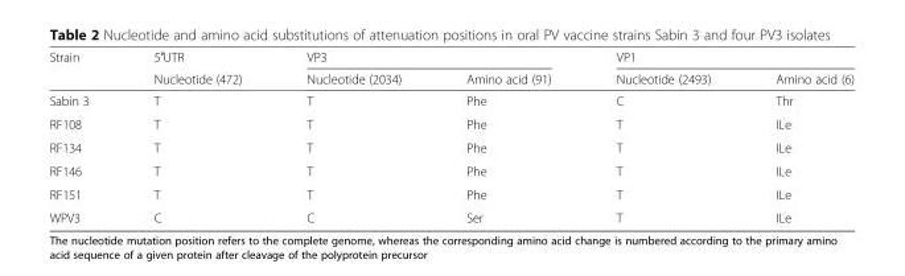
<table><thead><tr><td rowspan="2">Strain</td><td rowspan="2">5′UTR Nucleotide (472)</td><td colspan="2">VP3</td><td colspan="2">VP1</td></tr><tr><td>Nucleotide (2034)</td><td>Amino acid (91)</td><td>Nucleotide (2493)</td><td>Amino acid (6)</td></tr></thead><tbody><tr><td>Sabin 3</td><td>T</td><td>T</td><td>Phe</td><td>C</td><td>Thr</td></tr><tr><td>RF108</td><td>T</td><td>T</td><td>Phe</td><td>T</td><td>ILe</td></tr><tr><td>RF134</td><td>T</td><td>T</td><td>Phe</td><td>T</td><td>ILe</td></tr><tr><td>RF146</td><td>T</td><td>T</td><td>Phe</td><td>T</td><td>ILe</td></tr><tr><td>RF151</td><td>T</td><td>T</td><td>Phe</td><td>T</td><td>ILe</td></tr><tr><td>WPV3</td><td>C</td><td>C</td><td>Ser</td><td>T</td><td>ILe</td></tr></tbody></table>